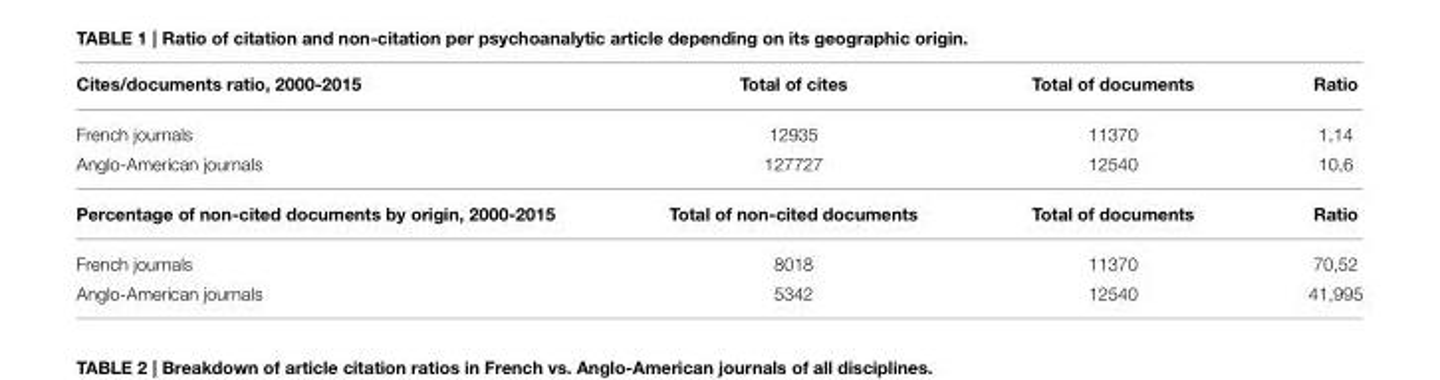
<table><thead><tr><td>Cites/documents ratio, 2000-2015</td><td>Total of cites</td><td>Total of documents</td><td>Ratio</td></tr></thead><tbody><tr><td>French journals</td><td>12935</td><td>11370</td><td>1,14</td></tr><tr><td>Anglo-American journals</td><td>127727</td><td>12540</td><td>10,6</td></tr><tr><td>Percentage of non-cited documents by origin, 2000-2015</td><td>Total of non-cited documents</td><td>Total of documents</td><td>Ratio</td></tr><tr><td>French journals</td><td>8018</td><td>11370</td><td>70,52</td></tr><tr><td>Anglo-American journals</td><td>5342</td><td>12540</td><td>41,995</td></tr></tbody></table>